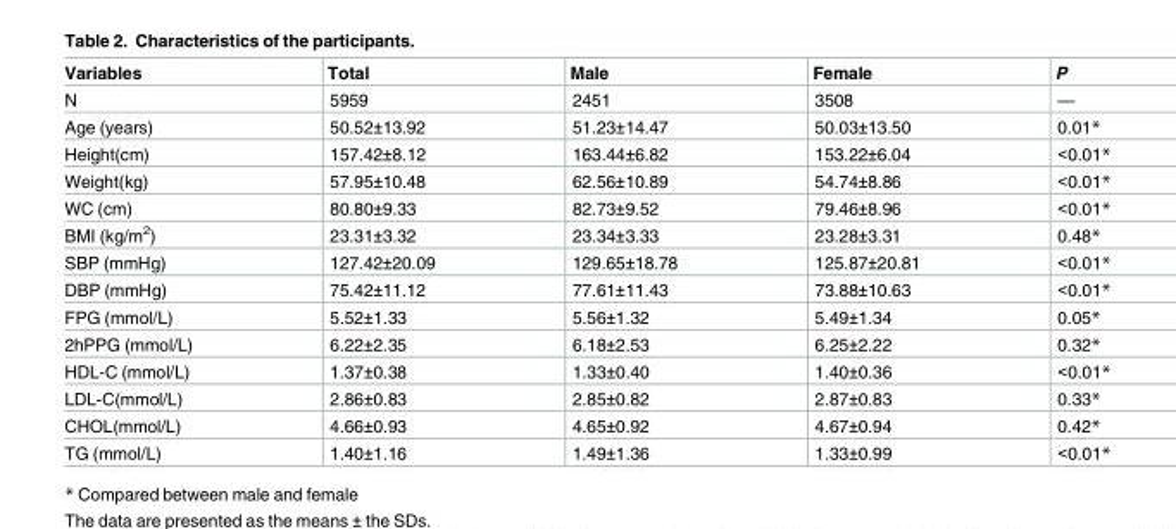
<table><thead><tr><td>Variables</td><td>Total</td><td>Male</td><td>Female</td><td>P</td></tr></thead><tbody><tr><td>N</td><td>5959</td><td>2451</td><td>3508</td><td>—</td></tr><tr><td>Age (years)</td><td>50.52±13.92</td><td>51.23±14.47</td><td>50.03±13.50</td><td>0.01*</td></tr><tr><td>Height(cm)</td><td>157.42±8.12</td><td>163.44±6.82</td><td>153.22±6.04</td><td>&lt;0.01*</td></tr><tr><td>Weight(kg)</td><td>57.95±10.48</td><td>62.56±10.89</td><td>54.74±8.86</td><td>&lt;0.01*</td></tr><tr><td>WC (cm)</td><td>80.80±9.33</td><td>82.73±9.52</td><td>79.46±8.96</td><td>&lt;0.01*</td></tr><tr><td>BMI (kg/m<sup>2</sup>)</td><td>23.31±3.32</td><td>23.34±3.33</td><td>23.28±3.31</td><td>0.48*</td></tr><tr><td>SBP (mmHg)</td><td>127.42±20.09</td><td>129.65±18.78</td><td>125.87±20.81</td><td>&lt;0.01*</td></tr><tr><td>DBP (mmHg)</td><td>75.42±11.12</td><td>77.61±11.43</td><td>73.88±10.63</td><td>&lt;0.01*</td></tr><tr><td>FPG (mmol/L)</td><td>5.52±1.33</td><td>5.56±1.32</td><td>5.49±1.34</td><td>0.05*</td></tr><tr><td>2hPPG (mmol/L)</td><td>6.22±2.35</td><td>6.18±2.53</td><td>6.25±2.22</td><td>0.32*</td></tr><tr><td>HDL-C (mmol/L)</td><td>1.37±0.38</td><td>1.33±0.40</td><td>1.40±0.36</td><td>&lt;0.01*</td></tr><tr><td>LDL-C(mmol/L)</td><td>2.86±0.83</td><td>2.85±0.82</td><td>2.87±0.83</td><td>0.33*</td></tr><tr><td>CHOL(mmol/L)</td><td>4.66±0.93</td><td>4.65±0.92</td><td>4.67±0.94</td><td>0.42*</td></tr><tr><td>TG (mmol/L)</td><td>1.40±1.16</td><td>1.49±1.36</td><td>1.33±0.99</td><td>&lt;0.01*</td></tr></tbody></table>